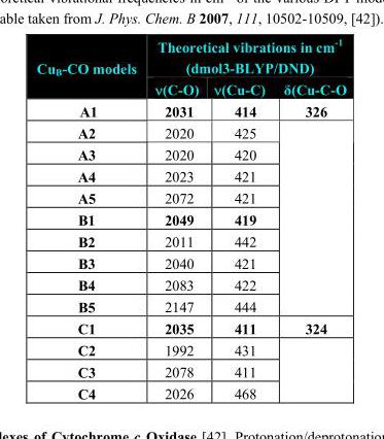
<table><thead><tr><td rowspan="2">Cu<sub>B</sub>-CO models</td><td colspan="3">Theoretical vibrations in cm<sup>-1</sup> (dmol3-BLYP/DND)</td></tr><tr><td>ν(C-O)</td><td>ν(Cu-C)</td><td>δ(Cu-C-O</td></tr></thead><tbody><tr><td>A1</td><td>2031</td><td>414</td><td>326</td></tr><tr><td>A2</td><td>2020</td><td>425</td><td rowspan="9"></td></tr><tr><td>A3</td><td>2020</td><td>420</td></tr><tr><td>A4</td><td>2023</td><td>421</td></tr><tr><td>A5</td><td>2072</td><td>421</td></tr><tr><td>B1</td><td>2049</td><td>419</td></tr><tr><td>B2</td><td>2011</td><td>442</td></tr><tr><td>B3</td><td>2040</td><td>421</td></tr><tr><td>B4</td><td>2083</td><td>422</td></tr><tr><td>B5</td><td>2147</td><td>444</td></tr><tr><td>C1</td><td>2035</td><td>411</td><td>324</td></tr><tr><td>C2</td><td>1992</td><td>431</td><td rowspan="3"></td></tr><tr><td>C3</td><td>2078</td><td>411</td></tr><tr><td>C4</td><td>2026</td><td>468</td></tr></tbody></table>